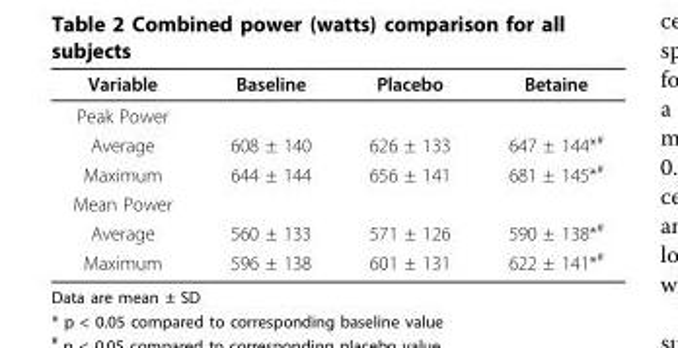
<table><thead><tr><td>Variable</td><td>Baseline</td><td>Placebo</td><td>Betaine</td></tr></thead><tbody><tr><td colspan="4">Peak Power</td></tr><tr><td>Average</td><td>608 ± 140</td><td>626 ± 133</td><td>647 ± 144*<sup>#</sup></td></tr><tr><td>Maximum</td><td>644 ± 144</td><td>656 ± 141</td><td>681 ± 145*<sup>#</sup></td></tr><tr><td colspan="4">Mean Power</td></tr><tr><td>Average</td><td>560 ± 133</td><td>571 ± 126</td><td>590 ± 138*<sup>#</sup></td></tr><tr><td>Maximum</td><td>596 ± 138</td><td>601 ± 131</td><td>622 ± 141*<sup>#</sup></td></tr></tbody></table>